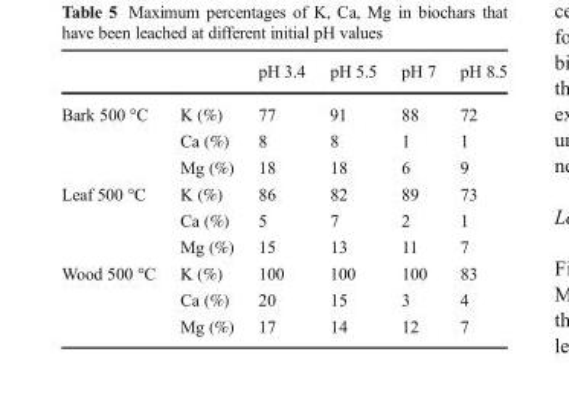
<table><thead><tr><td></td><td></td><td>pH 3.4</td><td>pH 5.5</td><td>pH 7</td><td>pH 8.5</td></tr></thead><tbody><tr><td rowspan="3">Bark 500 °C</td><td>K (%)</td><td>77</td><td>91</td><td>88</td><td>72</td></tr><tr><td>Ca (%)</td><td>8</td><td>8</td><td>1</td><td>1</td></tr><tr><td>Mg (%)</td><td>18</td><td>18</td><td>6</td><td>9</td></tr><tr><td rowspan="3">Leaf 500 °C</td><td>K (%)</td><td>86</td><td>82</td><td>89</td><td>73</td></tr><tr><td>Ca (%)</td><td>5</td><td>7</td><td>2</td><td>1</td></tr><tr><td>Mg (%)</td><td>15</td><td>13</td><td>11</td><td>7</td></tr><tr><td rowspan="3">Wood 500 °C</td><td>K (%)</td><td>100</td><td>100</td><td>100</td><td>83</td></tr><tr><td>Ca (%)</td><td>20</td><td>15</td><td>3</td><td>4</td></tr><tr><td>Mg (%)</td><td>17</td><td>14</td><td>12</td><td>7</td></tr></tbody></table>